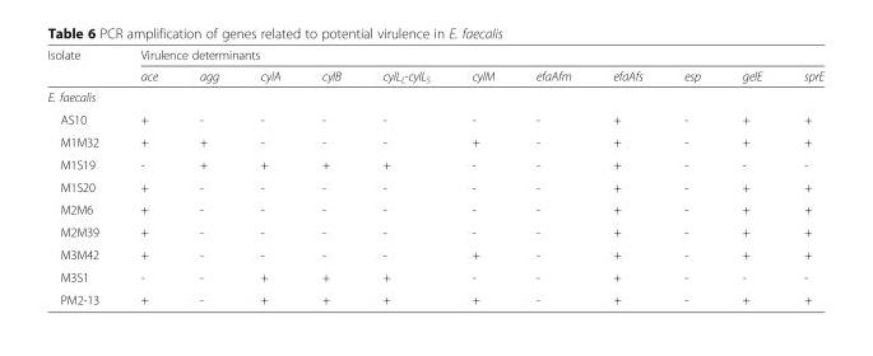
<table><thead><tr><td rowspan="2">Isolate</td><td colspan="11">Virulence determinants</td></tr><tr><td>ace</td><td>agg</td><td>cylA</td><td>cylB</td><td>cylL<sub>L</sub>-cylL<sub>S</sub></td><td>cylM</td><td>efaAfm</td><td>efaAfs</td><td>esp</td><td>gelE</td><td>sprE</td></tr></thead><tbody><tr><td colspan="12">E. faecalis</td></tr><tr><td>AS10</td><td>+</td><td>-</td><td>-</td><td>-</td><td>-</td><td>-</td><td>-</td><td>+</td><td>-</td><td>+</td><td>+</td></tr><tr><td>M1M32</td><td>+</td><td>+</td><td>-</td><td>-</td><td>-</td><td>+</td><td>-</td><td>+</td><td>-</td><td>+</td><td>+</td></tr><tr><td>M1S19</td><td>-</td><td>+</td><td>+</td><td>+</td><td>+</td><td>-</td><td>-</td><td>+</td><td>-</td><td>-</td><td>-</td></tr><tr><td>M1S20</td><td>+</td><td>-</td><td>-</td><td>-</td><td>-</td><td>-</td><td>-</td><td>+</td><td>-</td><td>+</td><td>+</td></tr><tr><td>M2M6</td><td>+</td><td>-</td><td>-</td><td>-</td><td>-</td><td>-</td><td>-</td><td>+</td><td>-</td><td>+</td><td>+</td></tr><tr><td>M2M39</td><td>+</td><td>-</td><td>-</td><td>-</td><td>-</td><td>-</td><td>-</td><td>+</td><td>-</td><td>+</td><td>+</td></tr><tr><td>M3M42</td><td>+</td><td>-</td><td>-</td><td>-</td><td>-</td><td>+</td><td>-</td><td>+</td><td>-</td><td>+</td><td>+</td></tr><tr><td>M3S1</td><td>-</td><td>-</td><td>+</td><td>+</td><td>+</td><td>-</td><td>-</td><td>+</td><td>-</td><td>-</td><td>-</td></tr><tr><td>PM2-13</td><td>+</td><td>-</td><td>+</td><td>+</td><td>+</td><td>+</td><td>-</td><td>+</td><td>-</td><td>+</td><td>+</td></tr></tbody></table>